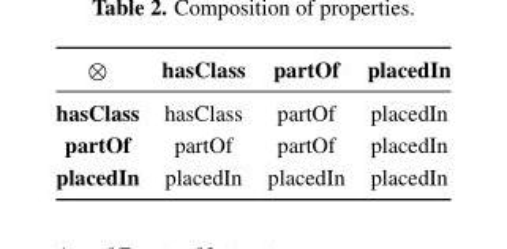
<table><thead><tr><td>⊗</td><td>hasClass</td><td>partOf</td><td>placedIn</td></tr></thead><tbody><tr><td>hasClass</td><td>hasClass</td><td>partOf</td><td>placedIn</td></tr><tr><td>partOf</td><td>partOf</td><td>partOf</td><td>placedIn</td></tr><tr><td>placedIn</td><td>placedIn</td><td>placedIn</td><td>placedIn</td></tr></tbody></table>